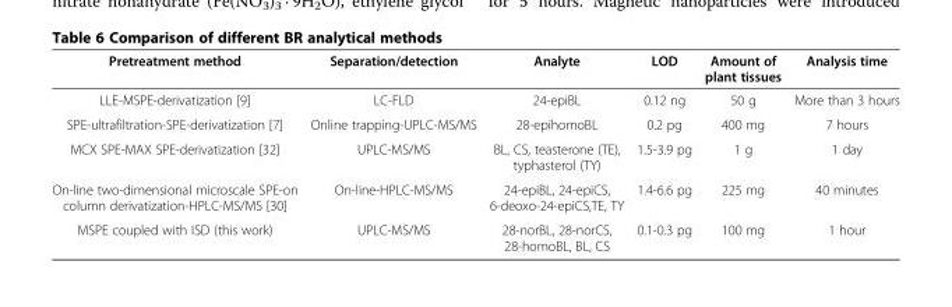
<table><thead><tr><td>Pretreatment method</td><td>Separation/detection</td><td>Analyte</td><td>LOD</td><td>Amount of plant tissues</td><td>Analysis time</td></tr></thead><tbody><tr><td>LLE-MSPE-derivatization [9]</td><td>LC-FLD</td><td>24-epiBL</td><td>0.12 ng</td><td>50 g</td><td>More than 3 hours</td></tr><tr><td>SPE-ultrafiltration-SPE-derivatization [7]</td><td>Online trapping-UPLC-MS/MS</td><td>28-epihomoBL</td><td>0.2 pg</td><td>400 mg</td><td>7 hours</td></tr><tr><td>MCX SPE-MAX SPE-derivatization [32]</td><td>UPLC-MS/MS</td><td>BL, CS, teasterone (TE), typhasterol (TY)</td><td>1.5-3.9 pg</td><td>1 g</td><td>1 day</td></tr><tr><td>On-line two-dimensional microscale SPE-on column derivatization-HPLC-MS/MS [30]</td><td>On-line-HPLC-MS/MS</td><td>24-epiBL, 24-epiCS, 6-deoxo-24-epiCS,TE, TY</td><td>1.4-6.6 pg</td><td>225 mg</td><td>40 minutes</td></tr><tr><td>MSPE coupled with ISD (this work)</td><td>UPLC-MS/MS</td><td>28-norBL, 28-norCS, 28-homoBL, BL, CS</td><td>0.1-0.3 pg</td><td>100 mg</td><td>1 hour</td></tr></tbody></table>